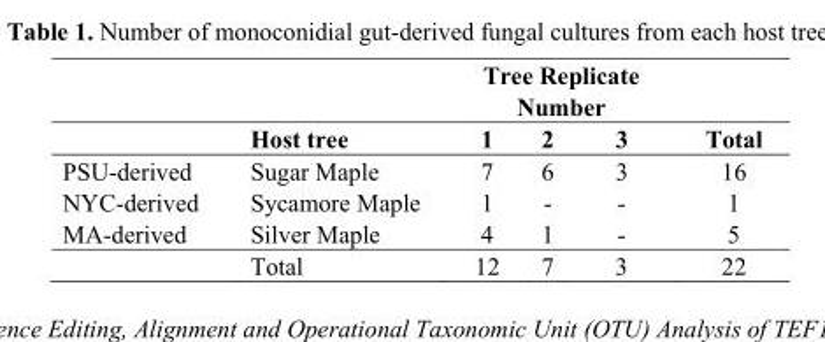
<table><thead><tr><td rowspan="2"></td><td rowspan="2">Host tree</td><td colspan="3">Tree Replicate Number</td><td rowspan="2">Total</td></tr><tr><td>1</td><td>2</td><td>3</td></tr></thead><tbody><tr><td>PSU-derived</td><td>Sugar Maple</td><td>7</td><td>6</td><td>3</td><td>16</td></tr><tr><td>NYC-derived</td><td>Sycamore Maple</td><td>1</td><td>-</td><td>-</td><td>1</td></tr><tr><td rowspan="2">MA-derived</td><td>Silver Maple</td><td>4</td><td>1</td><td>-</td><td>5</td></tr><tr><td>Total</td><td>12</td><td>7</td><td>3</td><td>22</td></tr></tbody></table>